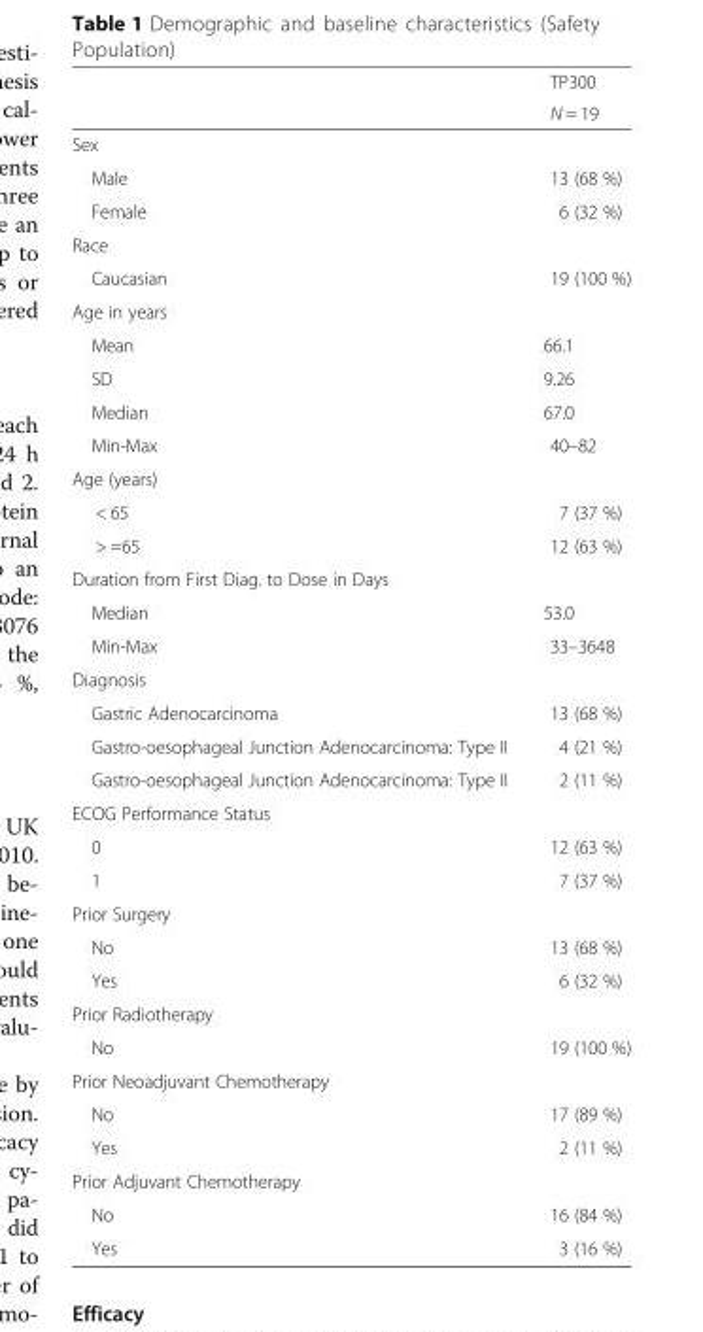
<table><thead><tr><td rowspan="2"></td><td rowspan="2">TP300 N = 19</td></tr><tr></tr></thead><tbody><tr><td colspan="2">Sex</td></tr><tr><td>Male</td><td>13 (68 %)</td></tr><tr><td>Female</td><td>6 (32 %)</td></tr><tr><td colspan="2">Race</td></tr><tr><td>Caucasian</td><td>19 (100 %)</td></tr><tr><td colspan="2">Age in years</td></tr><tr><td>Mean</td><td>66.1</td></tr><tr><td>SD</td><td>9.26</td></tr><tr><td>Median</td><td>67.0</td></tr><tr><td>Min-Max</td><td>40–82</td></tr><tr><td colspan="2">Age (years)</td></tr><tr><td>&lt; 65</td><td>7 (37 %)</td></tr><tr><td>&gt; =65</td><td>12 (63 %)</td></tr><tr><td colspan="2">Duration from First Diag. to Dose in Days</td></tr><tr><td>Median</td><td>53.0</td></tr><tr><td>Min-Max</td><td>33–3648</td></tr><tr><td colspan="2">Diagnosis</td></tr><tr><td>Gastric Adenocarcinoma</td><td>13 (68 %)</td></tr><tr><td>Gastro-oesophageal Junction Adenocarcinoma: Type II</td><td>4 (21 %)</td></tr><tr><td>Gastro-oesophageal Junction Adenocarcinoma: Type II</td><td>2 (11 %)</td></tr><tr><td colspan="2">ECOG Performance Status</td></tr><tr><td>0</td><td>12 (63 %)</td></tr><tr><td>1</td><td>7 (37 %)</td></tr><tr><td colspan="2">Prior Surgery</td></tr><tr><td>No</td><td>13 (68 %)</td></tr><tr><td>Yes</td><td>6 (32 %)</td></tr><tr><td colspan="2">Prior Radiotherapy</td></tr><tr><td>No</td><td>19 (100 %)</td></tr><tr><td colspan="2">Prior Neoadjuvant Chemotherapy</td></tr><tr><td>No</td><td>17 (89 %)</td></tr><tr><td>Yes</td><td>2 (11 %)</td></tr><tr><td colspan="2">Prior Adjuvant Chemotherapy</td></tr><tr><td>No</td><td>16 (84 %)</td></tr><tr><td>Yes</td><td>3 (16 %)</td></tr></tbody></table>